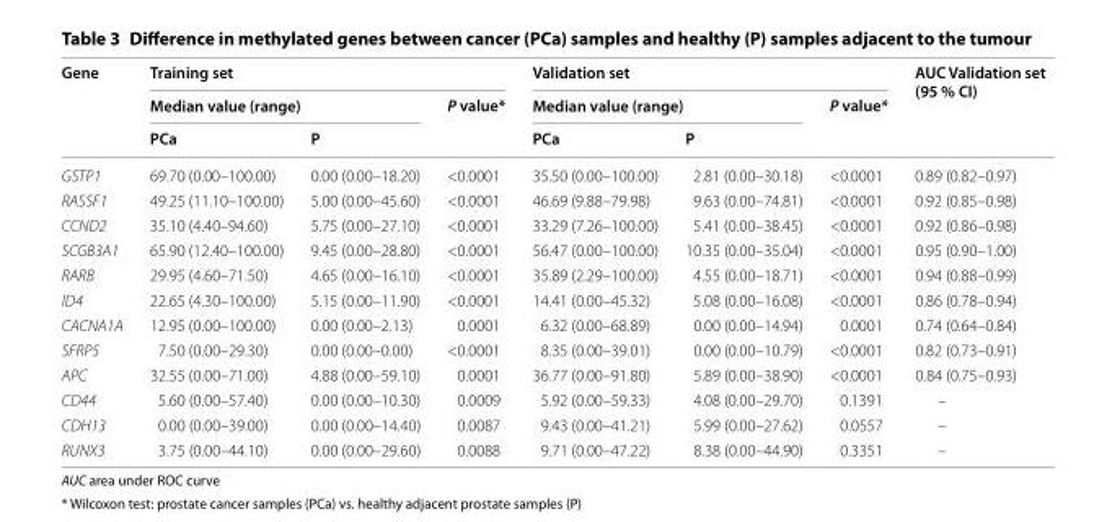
<table><thead><tr><td rowspan="3">Gene</td><td colspan="3">Training set</td><td colspan="3">Validation set</td><td rowspan="3">AUC Validation set (95 % CI)</td></tr><tr><td colspan="2">Median value (range)</td><td rowspan="2">P value*</td><td colspan="2">Median value (range)</td><td rowspan="2">P value*</td></tr><tr><td>PCa</td><td>P</td><td>PCa</td><td>P</td></tr></thead><tbody><tr><td>GSTP1</td><td>69.70 (0.00–100.00)</td><td>0.00 (0.00–18.20)</td><td>&lt;0.0001</td><td>35.50 (0.00–100.00)</td><td>2.81 (0.00–30.18)</td><td>&lt;0.0001</td><td>0.89 (0.82–0.97)</td></tr><tr><td>RASSF1</td><td>49.25 (11.10–100.00)</td><td>5.00 (0.00–45.60)</td><td>&lt;0.0001</td><td>46.69 (9.88–79.98)</td><td>9.63 (0.00–74.81)</td><td>&lt;0.0001</td><td>0.92 (0.85–0.98)</td></tr><tr><td>CCND2</td><td>35.10 (4.40–94.60)</td><td>5.75 (0.00–27.10)</td><td>&lt;0.0001</td><td>33.29 (7.26–100.00)</td><td>5.41 (0.00–38.45)</td><td>&lt;0.0001</td><td>0.92 (0.86–0.98)</td></tr><tr><td>SCGB3A1</td><td>65.90 (12.40–100.00)</td><td>9.45 (0.00–28.80)</td><td>&lt;0.0001</td><td>56.47 (0.00–100.00)</td><td>10.35 (0.00–35.04)</td><td>&lt;0.0001</td><td>0.95 (0.90–1.00)</td></tr><tr><td>RARB</td><td>29.95 (4.60–71.50)</td><td>4.65 (0.00–16.10)</td><td>&lt;0.0001</td><td>35.89 (2.29–100.00)</td><td>4.55 (0.00–18.71)</td><td>&lt;0.0001</td><td>0.94 (0.88–0.99)</td></tr><tr><td>ID4</td><td>22.65 (4.30–100.00)</td><td>5.15 (0.00–11.90)</td><td>&lt;0.0001</td><td>14.41 (0.00–45.32)</td><td>5.08 (0.00–16.08)</td><td>&lt;0.0001</td><td>0.86 (0.78–0.94)</td></tr><tr><td>CACNA1A</td><td>12.95 (0.00–100.00)</td><td>0.00 (0.00–2.13)</td><td>0.0001</td><td>6.32 (0.00–68.89)</td><td>0.00 (0.00–14.94)</td><td>0.0001</td><td>0.74 (0.64–0.84)</td></tr><tr><td>SFRP5</td><td>7.50 (0.00–29.30)</td><td>0.00 (0.00–0.00)</td><td>&lt;0.0001</td><td>8.35 (0.00–39.01)</td><td>0.00 (0.00–10.79)</td><td>&lt;0.0001</td><td>0.82 (0.73–0.91)</td></tr><tr><td>APC</td><td>32.55 (0.00–71.00)</td><td>4.88 (0.00–59.10)</td><td>0.0001</td><td>36.77 (0.00–91.80)</td><td>5.89 (0.00–38.90)</td><td>&lt;0.0001</td><td>0.84 (0.75–0.93)</td></tr><tr><td>CD44</td><td>5.60 (0.00–57.40)</td><td>0.00 (0.00–10.30)</td><td>0.0009</td><td>5.92 (0.00–59.33)</td><td>4.08 (0.00–29.70)</td><td>0.1391</td><td>–</td></tr><tr><td>CDH13</td><td>0.00 (0.00–39.00)</td><td>0.00 (0.00–14.40)</td><td>0.0087</td><td>9.43 (0.00–41.21)</td><td>5.99 (0.00–27.62)</td><td>0.0557</td><td>–</td></tr><tr><td>RUNX3</td><td>3.75 (0.00–44.10)</td><td>0.00 (0.00–29.60)</td><td>0.0088</td><td>9.71 (0.00–47.22)</td><td>8.38 (0.00–44.90)</td><td>0.3351</td><td>–</td></tr></tbody></table>